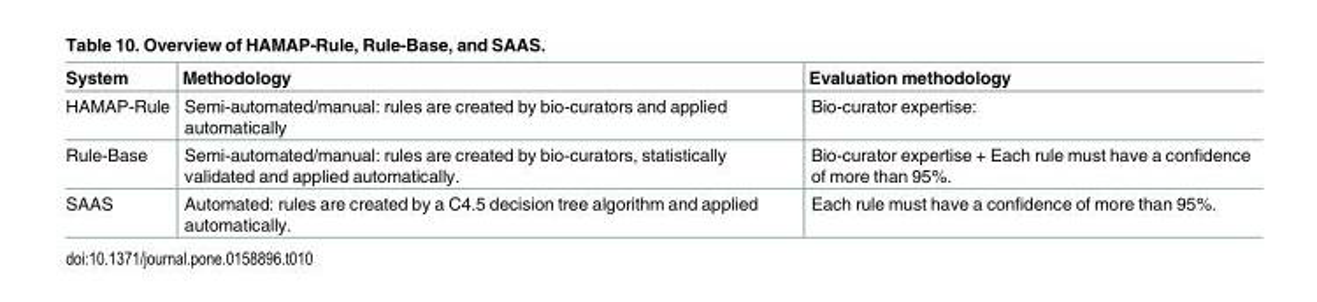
<table><thead><tr><td>System</td><td>Methodology</td><td>Evaluation methodology</td></tr></thead><tbody><tr><td>HAMAP-Rule</td><td>Semi-automated/manual: rules are created by bio-curators and applied automatically</td><td>Bio-curator expertise:</td></tr><tr><td>Rule-Base</td><td>Semi-automated/manual: rules are created by bio-curators, statistically validated and applied automatically.</td><td>Bio-curator expertise + Each rule must have a confidence of more than 95%.</td></tr><tr><td>SAAS</td><td>Automated: rules are created by a C4.5 decision tree algorithm and applied automatically.</td><td>Each rule must have a confidence of more than 95%.</td></tr></tbody></table>